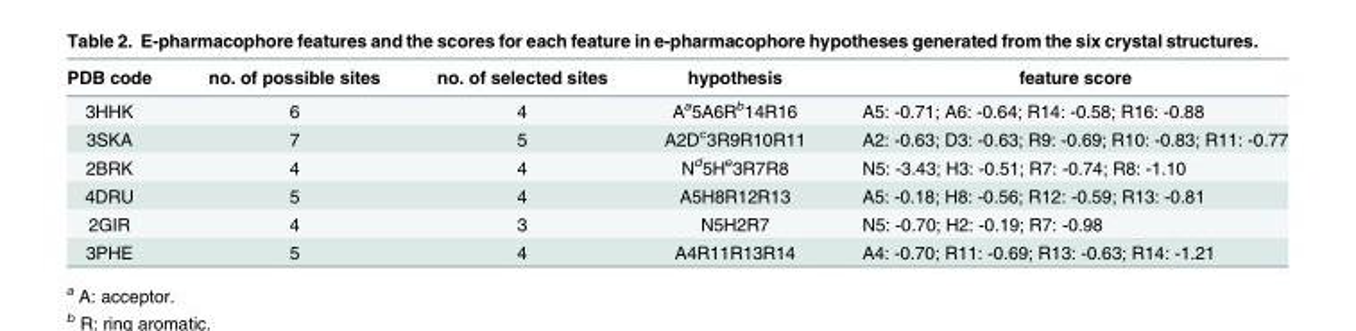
<table><thead><tr><td>PDB code</td><td>no. of possible sites</td><td>no. of selected sites</td><td>hypothesis</td><td>feature score</td></tr></thead><tbody><tr><td>3HHK</td><td>6</td><td>4</td><td>A<sup>a</sup>5A6R<sup>b</sup>14R16</td><td>A5: -0.71; A6: -0.64; R14: -0.58; R16: -0.88</td></tr><tr><td>3SKA</td><td>7</td><td>5</td><td>A2D<sup>c</sup>3R9R10R11</td><td>A2: -0.63; D3: -0.63; R9: -0.69; R10: -0.83; R11: -0.77</td></tr><tr><td>2BRK</td><td>4</td><td>4</td><td>N<sup>d</sup>5H<sup>e</sup>3R7R8</td><td>N5: -3.43; H3: -0.51; R7: -0.74; R8: -1.10</td></tr><tr><td>4DRU</td><td>5</td><td>4</td><td>A5H8R12R13</td><td>A5: -0.18; H8: -0.56; R12: -0.59; R13: -0.81</td></tr><tr><td>2GIR</td><td>4</td><td>3</td><td>N5H2R7</td><td>N5: -0.70; H2: -0.19; R7: -0.98</td></tr><tr><td>3PHE</td><td>5</td><td>4</td><td>A4R11R13R14</td><td>A4: -0.70; R11: -0.69; R13: -0.63; R14: -1.21</td></tr></tbody></table>